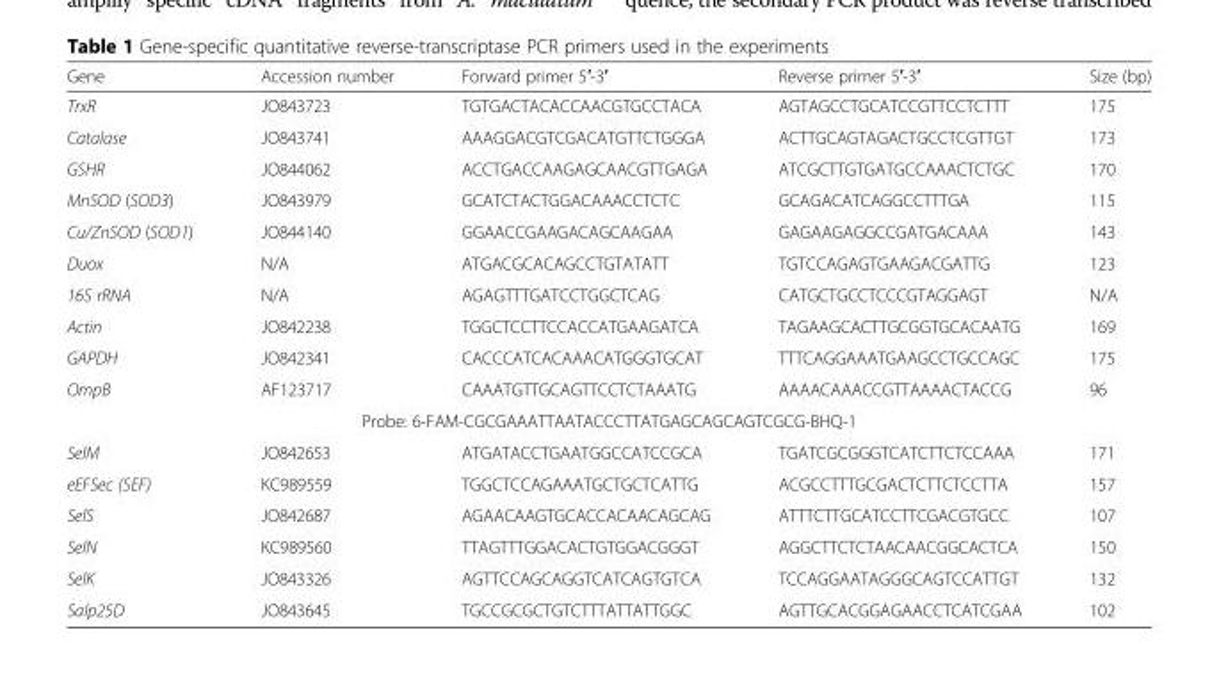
<table><thead><tr><td>Gene</td><td>Accession number</td><td>Forward primer 5′-3′</td><td>Reverse primer 5′-3′</td><td>Size (bp)</td></tr></thead><tbody><tr><td>TrxR</td><td>JO843723</td><td>TGTGACTACACCAACGTGCCTACA</td><td>AGTAGCCTGCATCCGTTCCTCTTT</td><td>175</td></tr><tr><td>Catalase</td><td>JO843741</td><td>AAAGGACGTCGACATGTTCTGGGA</td><td>ACTTGCAGTAGACTGCCTCGTTGT</td><td>173</td></tr><tr><td>GSHR</td><td>JO844062</td><td>ACCTGACCAAGAGCAACGTTGAGA</td><td>ATCGCTTGTGATGCCAAACTCTGC</td><td>170</td></tr><tr><td>MnSOD (SOD3)</td><td>JO843979</td><td>GCATCTACTGGACAAACCTCTC</td><td>GCAGACATCAGGCCTTTGA</td><td>115</td></tr><tr><td>Cu/ZnSOD (SOD1)</td><td>JO844140</td><td>GGAACCGAAGACAGCAAGAA</td><td>GAGAAGAGGCCGATGACAAA</td><td>143</td></tr><tr><td>Duox</td><td>N/A</td><td>ATGACGCACAGCCTGTATATT</td><td>TGTCCAGAGTGAAGACGATTG</td><td>123</td></tr><tr><td>16S rRNA</td><td>N/A</td><td>AGAGTTTGATCCTGGCTCAG</td><td>CATGCTGCCTCCCGTAGGAGT</td><td>N/A</td></tr><tr><td>Actin</td><td>JO842238</td><td>TGGCTCCTTCCACCATGAAGATCA</td><td>TAGAAGCACTTGCGGTGCACAATG</td><td>169</td></tr><tr><td>GAPDH</td><td>JO842341</td><td>CACCCATCACAAACATGGGTGCAT</td><td>TTTCAGGAAATGAAGCCTGCCAGC</td><td>175</td></tr><tr><td>OmpB</td><td>AF123717</td><td>CAAATGTTGCAGTTCCTCTAAATG</td><td>AAAACAAACCGTTAAAACTACCG</td><td>96</td></tr><tr><td colspan="5">Probe: 6-FAM-CGCGAAATTAATACCCTTATGAGCAGCAGTCGCG-BHQ-1</td></tr><tr><td>SelM</td><td>JO842653</td><td>ATGATACCTGAATGGCCATCCGCA</td><td>TGATCGCGGGTCATCTTCTCCAAA</td><td>171</td></tr><tr><td>eEFSec (SEF)</td><td>KC989559</td><td>TGGCTCCAGAAATGCTGCTCATTG</td><td>ACGCCTTTGCGACTCTTCTCCTTA</td><td>157</td></tr><tr><td>SelS</td><td>JO842687</td><td>AGAACAAGTGCACCACAACAGCAG</td><td>ATTTCTTGCATCCTTCGACGTGCC</td><td>107</td></tr><tr><td>SelN</td><td>KC989560</td><td>TTAGTTTGGACACTGTGGACGGGT</td><td>AGGCTTCTCTAACAACGGCACTCA</td><td>150</td></tr><tr><td>SelK</td><td>JO843326</td><td>AGTTCCAGCAGGTCATCAGTGTCA</td><td>TCCAGGAATAGGGCAGTCCATTGT</td><td>132</td></tr><tr><td>Salp25D</td><td>JO843645</td><td>TGCCGCGCTGTCTTTATTATTGGC</td><td>AGTTGCACGGAGAACCTCATCGAA</td><td>102</td></tr></tbody></table>